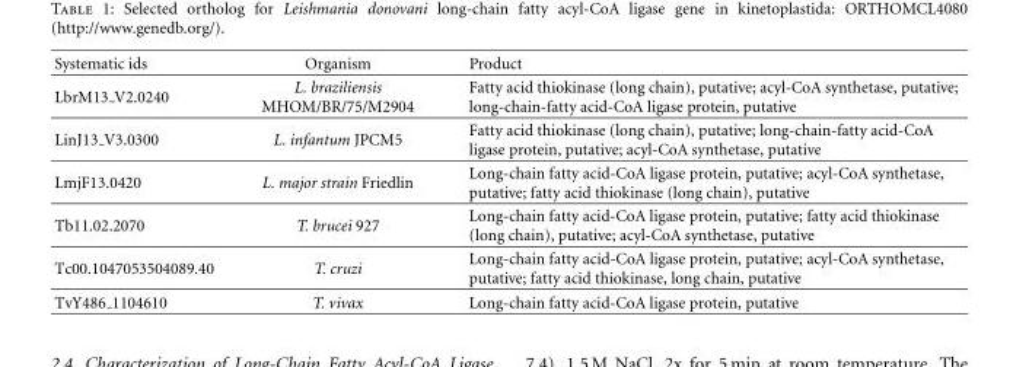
<table><thead><tr><td>Systematic ids</td><td>Organism</td><td>Product</td></tr></thead><tbody><tr><td>LbrM13 V2.0240</td><td>L. braziliensis MHOM/BR/75/M2904</td><td>Fatty acid thiokinase (long chain), putative; acyl-CoA synthetase, putative; long-chain-fatty acid-CoA ligase protein, putative</td></tr><tr><td>LinJ13 V3.0300</td><td>L. infantum JPCM5</td><td>Fatty acid thiokinase (long chain), putative; long-chain-fatty acid-CoA ligase protein, putative; acyl-CoA synthetase, putative</td></tr><tr><td>LmjF13.0420</td><td>L. major strain Friedlin</td><td>Long-chain fatty acid-CoA ligase protein, putative; acyl-CoA synthetase, putative; fatty acid thiokinase (long chain), putative</td></tr><tr><td>Tb11.02.2070</td><td>T. brucei 927</td><td>Long-chain fatty acid-CoA ligase protein, putative; fatty acid thiokinase (long chain), putative; acyl-CoA synthetase, putative</td></tr><tr><td>Tc00.1047053504089.40</td><td>T. cruzi</td><td>Long-chain fatty acid-CoA ligase protein, putative; acyl-CoA synthetase, putative; fatty acid thiokinase, long chain, putative</td></tr><tr><td>TvY486 1104610</td><td>T. vivax</td><td>Long-chain fatty acid-CoA ligase protein, putative</td></tr></tbody></table>